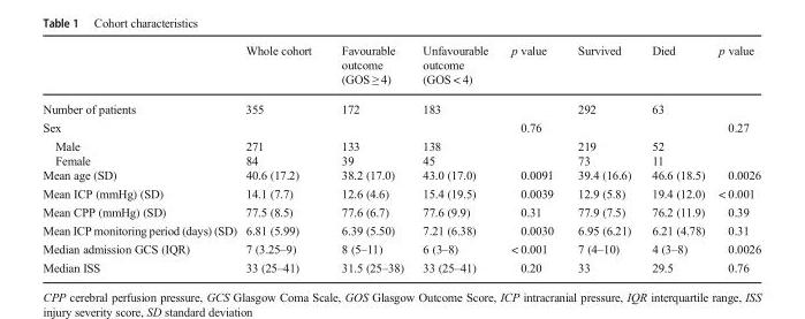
<table><thead><tr><td></td><td>Whole cohort</td><td>Favourable outcome (GOS ≥ 4)</td><td>Unfavourable outcome (GOS &lt; 4)</td><td>p value</td><td>Survived</td><td>Died</td><td>p value</td></tr></thead><tbody><tr><td>Number of patients</td><td>355</td><td>172</td><td>183</td><td></td><td>292</td><td>63</td><td></td></tr><tr><td>Sex</td><td></td><td></td><td></td><td>0.76</td><td></td><td></td><td>0.27</td></tr><tr><td>Male Female</td><td>271 84</td><td>133 39</td><td>138 45</td><td></td><td>219 73</td><td>52 11</td><td></td></tr><tr><td>Mean age (SD)</td><td>40.6 (17.2)</td><td>38.2 (17.0)</td><td>43.0 (17.0)</td><td>0.0091</td><td>39.4 (16.6)</td><td>46.6 (18.5)</td><td>0.0026</td></tr><tr><td>Mean ICP (mmHg) (SD)</td><td>14.1 (7.7)</td><td>12.6 (4.6)</td><td>15.4 (19.5)</td><td>0.0039</td><td>12.9 (5.8)</td><td>19.4 (12.0)</td><td>&lt; 0.001</td></tr><tr><td>Mean CPP (mmHg) (SD)</td><td>77.5 (8.5)</td><td>77.6 (6.7)</td><td>77.6 (9.9)</td><td>0.31</td><td>77.9 (7.5)</td><td>76.2 (11.9)</td><td>0.39</td></tr><tr><td>Mean ICP monitoring period (days) (SD)</td><td>6.81 (5.99)</td><td>6.39 (5.50)</td><td>7.21 (6.38)</td><td>0.0030</td><td>6.95 (6.21)</td><td>6.21 (4.78)</td><td>0.31</td></tr><tr><td>Median admission GCS (IQR)</td><td>7 (3.25–9)</td><td>8 (5–11)</td><td>6 (3–8)</td><td>&lt; 0.001</td><td>7 (4–10)</td><td>4 (3–8)</td><td>0.0026</td></tr><tr><td>Median ISS</td><td>33 (25–41)</td><td>31.5 (25–38)</td><td>33 (25–41)</td><td>0.20</td><td>33</td><td>29.5</td><td>0.76</td></tr></tbody></table>